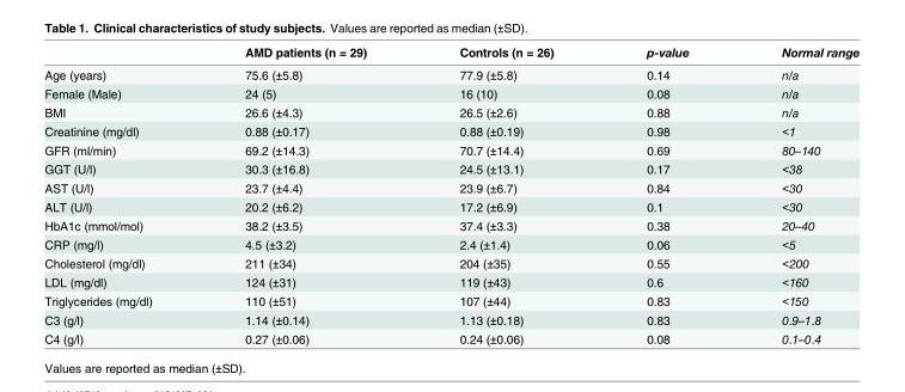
<table><thead><tr><td></td><td>AMD patients (n = 29)</td><td>Controls (n = 26)</td><td>p-value</td><td>Normal range</td></tr></thead><tbody><tr><td>Age (years)</td><td>75.6 (±5.8)</td><td>77.9 (±5.8)</td><td>0.14</td><td>n/a</td></tr><tr><td>Female (Male)</td><td>24 (5)</td><td>16 (10)</td><td>0.08</td><td>n/a</td></tr><tr><td>BMI</td><td>26.6 (±4.3)</td><td>26.5 (±2.6)</td><td>0.88</td><td>n/a</td></tr><tr><td>Creatinine (mg/dl)</td><td>0.88 (±0.17)</td><td>0.88 (±0.19)</td><td>0.98</td><td>&lt;1</td></tr><tr><td>GFR (ml/min)</td><td>69.2 (±14.3)</td><td>70.7 (±14.4)</td><td>0.69</td><td>80–140</td></tr><tr><td>GGT (U/l)</td><td>30.3 (±16.8)</td><td>24.5 (±13.1)</td><td>0.17</td><td>&lt;38</td></tr><tr><td>AST (U/l)</td><td>23.7 (±4.4)</td><td>23.9 (±6.7)</td><td>0.84</td><td>&lt;30</td></tr><tr><td>ALT (U/l)</td><td>20.2 (±6.2)</td><td>17.2 (±6.9)</td><td>0.1</td><td>&lt;30</td></tr><tr><td>HbA1c (mmol/mol)</td><td>38.2 (±3.5)</td><td>37.4 (±3.3)</td><td>0.38</td><td>20–40</td></tr><tr><td>CRP (mg/l)</td><td>4.5 (±3.2)</td><td>2.4 (±1.4)</td><td>0.06</td><td>&lt;5</td></tr><tr><td>Cholesterol (mg/dl)</td><td>211 (±34)</td><td>204 (±35)</td><td>0.55</td><td>&lt;200</td></tr><tr><td>LDL (mg/dl)</td><td>124 (±31)</td><td>119 (±43)</td><td>0.6</td><td>&lt;160</td></tr><tr><td>Triglycerides (mg/dl)</td><td>110 (±51)</td><td>107 (±44)</td><td>0.83</td><td>&lt;150</td></tr><tr><td>C3 (g/l)</td><td>1.14 (±0.14)</td><td>1.13 (±0.18)</td><td>0.83</td><td>0.9–1.8</td></tr><tr><td>C4 (g/l)</td><td>0.27 (±0.06)</td><td>0.24 (±0.06)</td><td>0.08</td><td>0.1–0.4</td></tr></tbody></table>